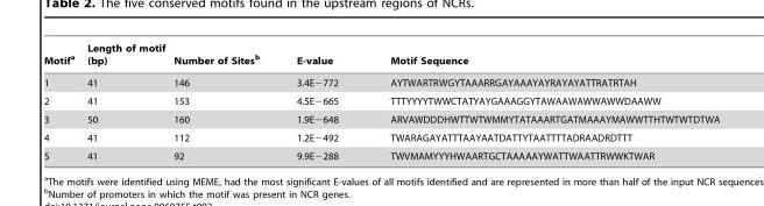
<table><thead><tr><td>Motif<sup>a</sup></td><td>Length of motif (bp)</td><td>Number of Sites<sup>b</sup></td><td>E-value</td><td>Motif Sequence</td></tr></thead><tbody><tr><td>1</td><td>41</td><td>146</td><td>3.4E−772</td><td>AYTWARTRWGYTAAARRGAYAAAYAYRAYAYATTRATRTAH</td></tr><tr><td>2</td><td>41</td><td>153</td><td>4.5E−665</td><td>TTTYYYYTWWCTATYAYGAAAGGYTAWAAWAWWAWWDAAWW</td></tr><tr><td>3</td><td>50</td><td>160</td><td>1.9E−648</td><td>ARVAWDDDHWTTWTWMMYTATAAARTGATMAAAYMAWWTTHTWTWTDTWA</td></tr><tr><td>4</td><td>41</td><td>112</td><td>1.2E−492</td><td>TWARAGAYATTTAAYAATDATTYTAATTTTADRAADRDTTT</td></tr><tr><td>5</td><td>41</td><td>92</td><td>9.9E−288</td><td>TWVMAMYYYHWAARTGCTAAAAAYWATTWAATTRWWKTWAR</td></tr></tbody></table>